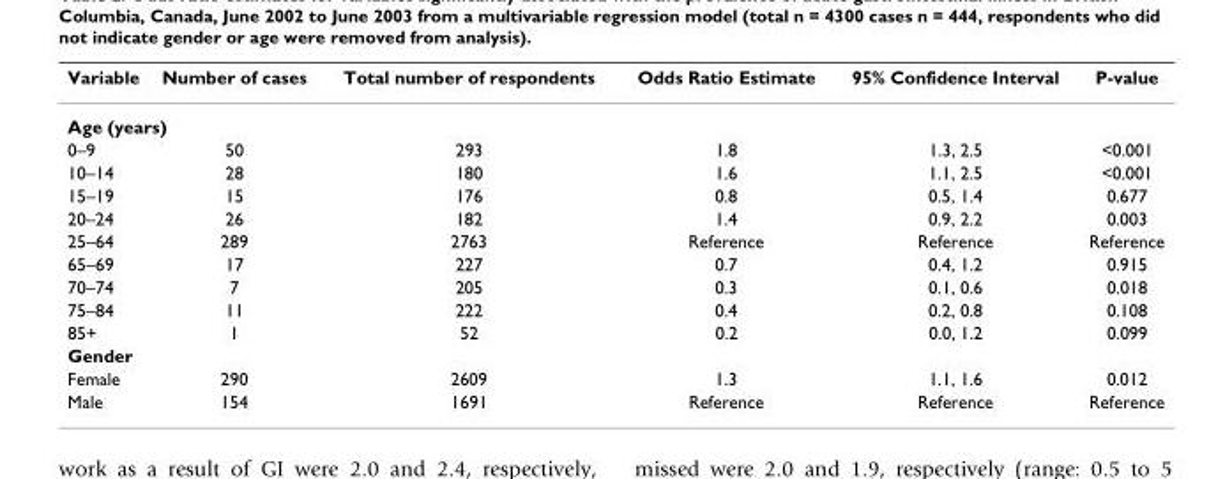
<table><thead><tr><td>Variable</td><td>Number of cases</td><td>Total number of respondents</td><td>Odds Ratio Estimate</td><td>95% Confidence Interval</td><td>P-value</td></tr></thead><tbody><tr><td colspan="6">Age (years)</td></tr><tr><td>0–9</td><td>50</td><td>293</td><td>1.8</td><td>1.3, 2.5</td><td>&lt;0.001</td></tr><tr><td>10–14</td><td>28</td><td>180</td><td>1.6</td><td>1.1, 2.5</td><td>&lt;0.001</td></tr><tr><td>15–19</td><td>15</td><td>176</td><td>0.8</td><td>0.5, 1.4</td><td>0.677</td></tr><tr><td>20–24</td><td>26</td><td>182</td><td>1.4</td><td>0.9, 2.2</td><td>0.003</td></tr><tr><td>25–64</td><td>289</td><td>2763</td><td>Reference</td><td>Reference</td><td>Reference</td></tr><tr><td>65–69</td><td>17</td><td>227</td><td>0.7</td><td>0.4, 1.2</td><td>0.915</td></tr><tr><td>70–74</td><td>7</td><td>205</td><td>0.3</td><td>0.1, 0.6</td><td>0.018</td></tr><tr><td>75–84</td><td>11</td><td>222</td><td>0.4</td><td>0.2, 0.8</td><td>0.108</td></tr><tr><td>85+</td><td>1</td><td>52</td><td>0.2</td><td>0.0, 1.2</td><td>0.099</td></tr><tr><td colspan="6">Gender</td></tr><tr><td>Female</td><td>290</td><td>2609</td><td>1.3</td><td>1.1, 1.6</td><td>0.012</td></tr><tr><td>Male</td><td>154</td><td>1691</td><td>Reference</td><td>Reference</td><td>Reference</td></tr></tbody></table>